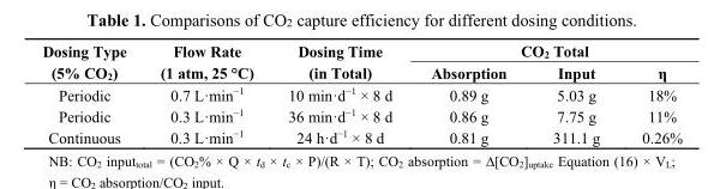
<table><thead><tr><td rowspan="2">Dosing Type (5% CO<sub>2</sub>)</td><td rowspan="2">Flow Rate (1 atm, 25 °C)</td><td rowspan="2">Dosing Time (in Total)</td><td colspan="3">CO<sub>2</sub> Total</td></tr><tr><td>Absorption</td><td>Input</td><td>η</td></tr></thead><tbody><tr><td>Periodic</td><td>0.7 L·min<sup>−1</sup></td><td>10 min·d<sup>−1</sup> × 8 d</td><td>0.89 g</td><td>5.03 g</td><td>18%</td></tr><tr><td>Periodic</td><td>0.3 L·min<sup>−1</sup></td><td>36 min·d<sup>−1</sup> × 8 d</td><td>0.86 g</td><td>7.75 g</td><td>11%</td></tr><tr><td>Continuous</td><td>0.3 L·min<sup>−1</sup></td><td>24 h·d<sup>−1</sup> × 8 d</td><td>0.81 g</td><td>311.1 g</td><td>0.26%</td></tr></tbody></table>